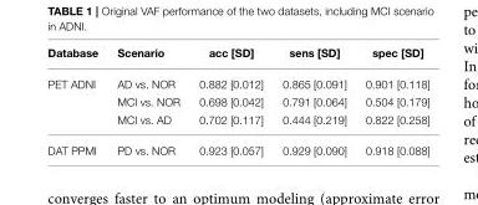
<table><thead><tr><td>Database</td><td>Scenario</td><td>acc [SD]</td><td>sens [SD]</td><td>spec [SD]</td></tr></thead><tbody><tr><td rowspan="3">PET ADNI</td><td>AD vs. NOR</td><td>0.882 [0.012]</td><td>0.865 [0.091]</td><td>0.901 [0.118]</td></tr><tr><td>MCI vs. NOR</td><td>0.698 [0.042]</td><td>0.791 [0.064]</td><td>0.504 [0.179]</td></tr><tr><td>MCI vs. AD</td><td>0.702 [0.117]</td><td>0.444 [0.219]</td><td>0.822 [0.258]</td></tr><tr><td>DAT PPMI</td><td>PD vs. NOR</td><td>0.923 [0.057]</td><td>0.929 [0.090]</td><td>0.918 [0.088]</td></tr></tbody></table>